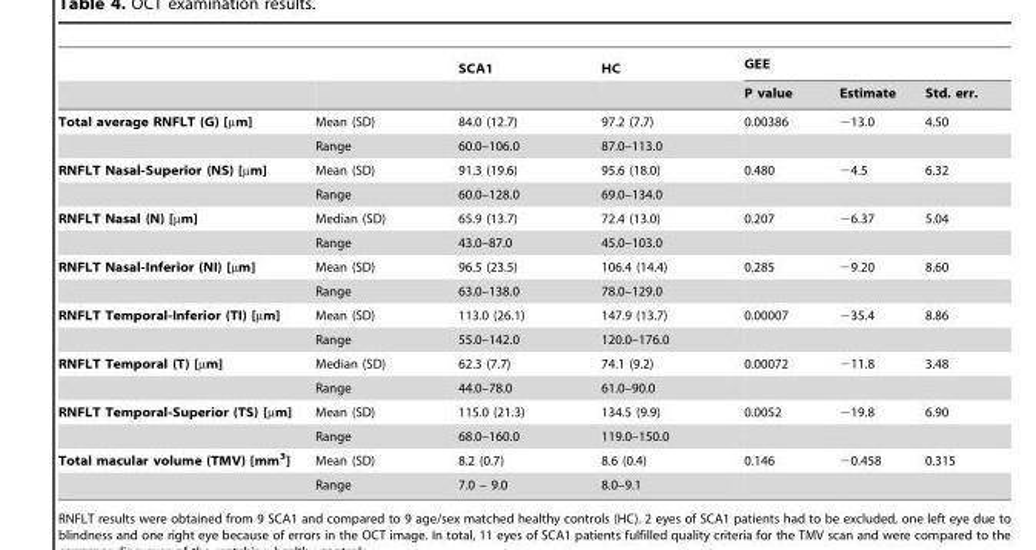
<table><thead><tr><td rowspan="2"></td><td rowspan="2"></td><td rowspan="2">SCA1</td><td rowspan="2">HC</td><td colspan="3">GEE</td></tr><tr><td>P value</td><td>Estimate</td><td>Std. err.</td></tr></thead><tbody><tr><td rowspan="2">Total average RNFLT (G) [µm]</td><td>Mean (SD)</td><td>84.0 (12.7)</td><td>97.2 (7.7)</td><td>0.00386</td><td>−13.0</td><td>4.50</td></tr><tr><td>Range</td><td>60.0–106.0</td><td>87.0–113.0</td><td></td><td></td><td></td></tr><tr><td rowspan="2">RNFLT Nasal-Superior (NS) [µm]</td><td>Mean (SD)</td><td>91.3 (19.6)</td><td>95.6 (18.0)</td><td>0.480</td><td>−4.5</td><td>6.32</td></tr><tr><td>Range</td><td>60.0–128.0</td><td>69.0–134.0</td><td></td><td></td><td></td></tr><tr><td rowspan="2">RNFLT Nasal (N) [µm]</td><td>Median (SD)</td><td>65.9 (13.7)</td><td>72.4 (13.0)</td><td>0.207</td><td>−6.37</td><td>5.04</td></tr><tr><td>Range</td><td>43.0–87.0</td><td>45.0–103.0</td><td></td><td></td><td></td></tr><tr><td rowspan="2">RNFLT Nasal-Inferior (NI) [µm]</td><td>Mean (SD)</td><td>96.5 (23.5)</td><td>106.4 (14.4)</td><td>0.285</td><td>−9.20</td><td>8.60</td></tr><tr><td>Range</td><td>63.0–138.0</td><td>78.0–129.0</td><td></td><td></td><td></td></tr><tr><td rowspan="2">RNFLT Temporal-Inferior (TI) [µm]</td><td>Mean (SD)</td><td>113.0 (26.1)</td><td>147.9 (13.7)</td><td>0.00007</td><td>−35.4</td><td>8.86</td></tr><tr><td>Range</td><td>55.0–142.0</td><td>120.0–176.0</td><td></td><td></td><td></td></tr><tr><td rowspan="2">RNFLT Temporal (T) [µm]</td><td>Median (SD)</td><td>62.3 (7.7)</td><td>74.1 (9.2)</td><td>0.00072</td><td>−11.8</td><td>3.48</td></tr><tr><td>Range</td><td>44.0–78.0</td><td>61.0–90.0</td><td></td><td></td><td></td></tr><tr><td rowspan="2">RNFLT Temporal-Superior (TS) [µm]</td><td>Mean (SD)</td><td>115.0 (21.3)</td><td>134.5 (9.9)</td><td>0.0052</td><td>−19.8</td><td>6.90</td></tr><tr><td>Range</td><td>68.0–160.0</td><td>119.0–150.0</td><td></td><td></td><td></td></tr><tr><td rowspan="2">Total macular volume (TMV) [mm<sup>3</sup>]</td><td>Mean (SD)</td><td>8.2 (0.7)</td><td>8.6 (0.4)</td><td>0.146</td><td>−0.458</td><td>0.315</td></tr><tr><td>Range</td><td>7.0 – 9.0</td><td>8.0–9.1</td><td></td><td></td><td></td></tr></tbody></table>